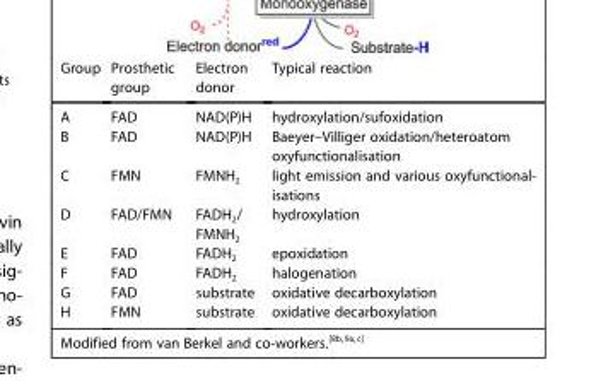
<table><thead><tr><td>Group</td><td>Prosthetic group</td><td>Electron donor</td><td>Typical reaction</td></tr></thead><tbody><tr><td>A</td><td>FAD</td><td>NAD(P)H</td><td>hydroxylation/sufoxidation</td></tr><tr><td>B</td><td>FAD</td><td>NAD(P)H</td><td>Baeyer–Villiger oxidation/heteroatom oxyfunctionalisation</td></tr><tr><td>C</td><td>FMN</td><td>FMNH<sub>2</sub></td><td>light emission and various oxyfunctional- isations</td></tr><tr><td>D</td><td>FAD/FMN</td><td>FADH<sub>2</sub>/ FMNH<sub>2</sub></td><td>hydroxylation</td></tr><tr><td>E</td><td>FAD</td><td>FADH<sub>2</sub></td><td>epoxidation</td></tr><tr><td>F</td><td>FAD</td><td>FADH<sub>2</sub></td><td>halogenation</td></tr><tr><td>G</td><td>FAD</td><td>substrate</td><td>oxidative decarboxylation</td></tr><tr><td>H</td><td>FMN</td><td>substrate</td><td>oxidative decarboxylation</td></tr></tbody></table>